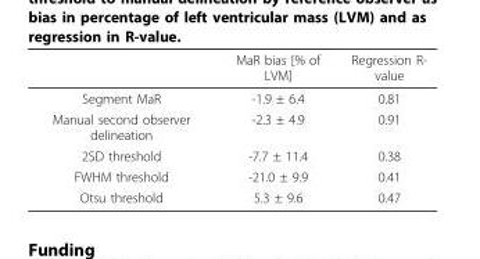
<table><thead><tr><td></td><td>MaR bias [% of LVM]</td><td>Regression R- value</td></tr></thead><tbody><tr><td>Segment MaR</td><td>-1.9 ± 6.4</td><td>0.81</td></tr><tr><td>Manual second observer delineation</td><td>-2.3 ± 4.9</td><td>0.91</td></tr><tr><td>2SD threshold</td><td>-7.7 ± 11.4</td><td>0.38</td></tr><tr><td>FWHM threshold</td><td>-21.0 ± 9.9</td><td>0.41</td></tr><tr><td>Otsu threshold</td><td>5.3 ± 9.6</td><td>0.47</td></tr></tbody></table>